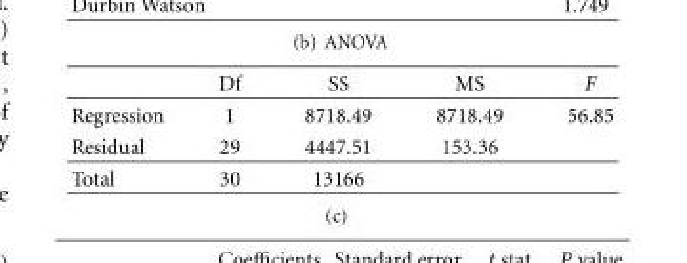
<table><thead><tr><td></td><td>Df</td><td>SS</td><td>MS</td><td>F</td></tr></thead><tbody><tr><td>Regression</td><td>1</td><td>8718.49</td><td>8718.49</td><td>56.85</td></tr><tr><td>Residual</td><td>29</td><td>4447.51</td><td>153.36</td><td></td></tr><tr><td>Total</td><td>30</td><td>13166</td><td></td><td></td></tr></tbody></table>